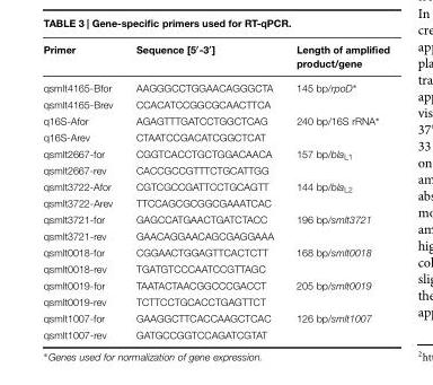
<table><thead><tr><td>Primer</td><td>Sequence [5′-3′]</td><td>Length of amplified product/gene</td></tr></thead><tbody><tr><td>qsmlt4165-Bfor</td><td>AAGGGCCTGGAACAGGGCTA</td><td>145 bp/rpoD∗</td></tr><tr><td>qsmlt4165-Brev</td><td>CCACATCCGGCGCAACTTCA</td><td></td></tr><tr><td>q16S-Afor</td><td>AGAGTTTGATCCTGGCTCAG</td><td>240 bp/16S rRNA∗</td></tr><tr><td>q16S-Arev</td><td>CTAATCCGACATCGGCTCAT</td><td></td></tr><tr><td>qsmlt2667-for</td><td>CGGTCACCTGCTGGACAACA</td><td>157 bp/bla<sub>L1</sub></td></tr><tr><td>qsmlt2667-rev</td><td>CACCGCCGTTTCTGCATTGG</td><td></td></tr><tr><td>qsmlt3722-Afor</td><td>CGTCGCCGATTCCTGCAGTT</td><td>144 bp/bla<sub>L2</sub></td></tr><tr><td>qsmlt3722-Arev</td><td>TTCCAGCGCGGCGAAATCAC</td><td></td></tr><tr><td>qsmlt3721-for</td><td>GAGCCATGAACTGATCTACC</td><td>196 bp/smlt3721</td></tr><tr><td>qsmlt3721-rev</td><td>GAACAGGAACAGCGAGGAAA</td><td></td></tr><tr><td>qsmlt0018-for</td><td>CGGAACTGGAGTTCACTCTT</td><td>168 bp/smlt0018</td></tr><tr><td>qsmlt0018-rev</td><td>TGATGTCCCAATCCGTTAGC</td><td></td></tr><tr><td>qsmlt0019-for</td><td>TAATACTAACGGCCCGACCT</td><td>205 bp/smlt0019</td></tr><tr><td>qsmlt0019-rev</td><td>TCTTCCTGCACCTGAGTTCT</td><td></td></tr><tr><td>qsmlt1007-for</td><td>GAAGGCTTCACCAAGCTCAC</td><td>126 bp/smlt1007</td></tr><tr><td>qsmlt1007-rev</td><td>GATGCCGGTCCAGATCGTAT</td><td></td></tr></tbody></table>